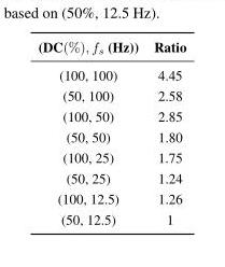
<table><thead><tr><td>(DC(%), f<sub>s</sub> (Hz))</td><td>Ratio</td></tr></thead><tbody><tr><td>(100, 100)</td><td>4.45</td></tr><tr><td>(50, 100)</td><td>2.58</td></tr><tr><td>(100, 50)</td><td>2.85</td></tr><tr><td>(50, 50)</td><td>1.80</td></tr><tr><td>(100, 25)</td><td>1.75</td></tr><tr><td>(50, 25)</td><td>1.24</td></tr><tr><td>(100, 12.5)</td><td>1.26</td></tr><tr><td>(50, 12.5)</td><td>1</td></tr></tbody></table>